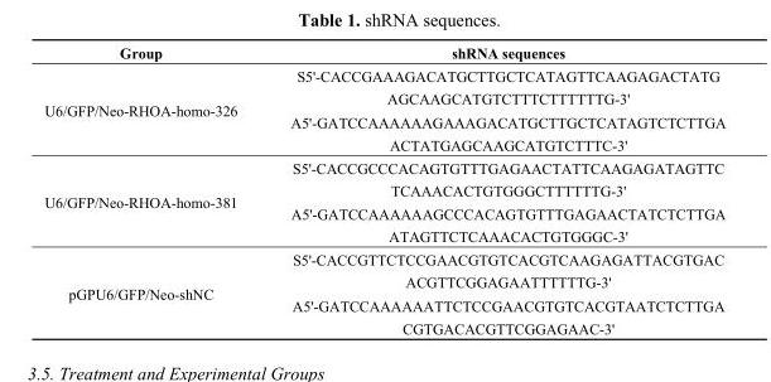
<table><thead><tr><td>Group</td><td>shRNA sequences</td></tr></thead><tbody><tr><td>U6/GFP/Neo-RHOA-homo-326</td><td>S5&#x27;-CACCGAAAGACATGCTTGCTCATAGTTCAAGAGACTATG AGCAAGCATGTCTTTCTTTTTTG-3&#x27; A5&#x27;-GATCCAAAAAAGAAAGACATGCTTGCTCATAGTCTCTTGA ACTATGAGCAAGCATGTCTTTC-3&#x27;</td></tr><tr><td>U6/GFP/Neo-RHOA-homo-381</td><td>S5&#x27;-CACCGCCCACAGTGTTTGAGAACTATTCAAGAGATAGTTC TCAAACACTGTGGGCTTTTTTG-3&#x27; A5&#x27;-GATCCAAAAAAGCCCACAGTGTTTGAGAACTATCTCTTGA ATAGTTCTCAAACACTGTGGGC-3&#x27;</td></tr><tr><td>pGPU6/GFP/Neo-shNC</td><td>S5&#x27;-CACCGTTCTCCGAACGTGTCACGTCAAGAGATTACGTGAC ACGTTCGGAGAATTTTTTG-3&#x27; A5&#x27;-GATCCAAAAAATTCTCCGAACGTGTCACGTAATCTCTTGA CGTGACACGTTCGGAGAAC-3&#x27;</td></tr></tbody></table>